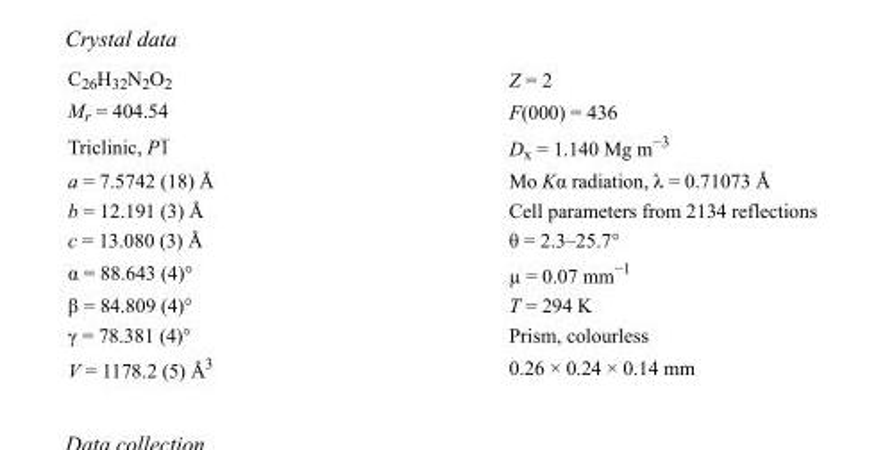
<table><tbody><tr><td>C<sub>26</sub>H<sub>32</sub>N<sub>2</sub>O<sub>2</sub></td><td>Z = 2</td></tr><tr><td>M<sub>r</sub> = 404.54</td><td>F(000) = 436</td></tr><tr><td>Triclinic, P1</td><td>D<sub>x</sub> = 1.140 Mg m<sup>−3</sup></td></tr><tr><td>a = 7.5742 (18) Å</td><td>Mo Kα radiation, λ = 0.71073 Å</td></tr><tr><td>b = 12.191 (3) Å</td><td>Cell parameters from 2134 reflections</td></tr><tr><td>c = 13.080 (3) Å</td><td>θ = 2.3–25.7°</td></tr><tr><td>α = 88.643 (4)°</td><td>µ = 0.07 mm<sup>−1</sup></td></tr><tr><td>β = 84.809 (4)°</td><td>T = 294 K</td></tr><tr><td>γ = 78.381 (4)°</td><td>Prism, colourless</td></tr><tr><td>V = 1178.2 (5) Å<sup>3</sup></td><td>0.26 × 0.24 × 0.14 mm</td></tr></tbody></table>